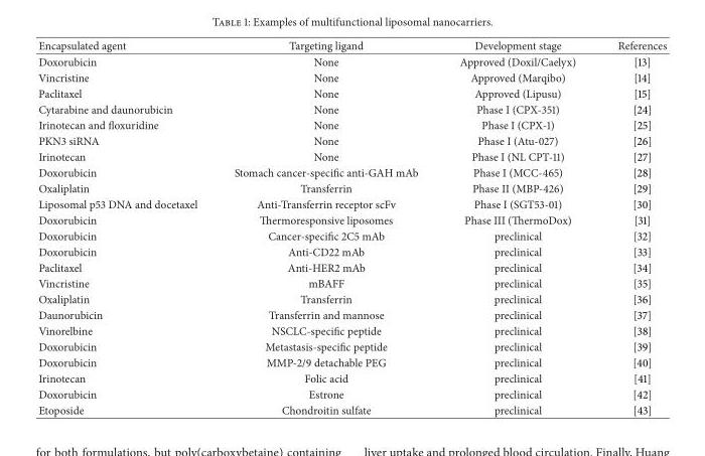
<table><thead><tr><td>Encapsulated agent</td><td>Targeting ligand</td><td>Development stage</td><td>References</td></tr></thead><tbody><tr><td>Doxorubicin</td><td>None</td><td>Approved (Doxil/Caelyx)</td><td>[13]</td></tr><tr><td>Vincristine</td><td>None</td><td>Approved (Marqibo)</td><td>[14]</td></tr><tr><td>Paclitaxel</td><td>None</td><td>Approved (Lipusu)</td><td>[15]</td></tr><tr><td>Cytarabine and daunorubicin</td><td>None</td><td>Phase I (CPX-351)</td><td>[24]</td></tr><tr><td>Irinotecan and floxuridine</td><td>None</td><td>Phase I (CPX-1)</td><td>[25]</td></tr><tr><td>PKN3 siRNA</td><td>None</td><td>Phase I (Atu-027)</td><td>[26]</td></tr><tr><td>Irinotecan</td><td>None</td><td>Phase I (NL CPT-11)</td><td>[27]</td></tr><tr><td>Doxorubicin</td><td>Stomach cancer-specific anti-GAH mAb</td><td>Phase I (MCC-465)</td><td>[28]</td></tr><tr><td>Oxaliplatin</td><td>Transferrin</td><td>Phase II (MBP-426)</td><td>[29]</td></tr><tr><td>Liposomal p53 DNA and docetaxel</td><td>Anti-Transferrin receptor scFv</td><td>Phase I (SGT53-01)</td><td>[30]</td></tr><tr><td>Doxorubicin</td><td>Thermoresponsive liposomes</td><td>Phase III (ThermoDox)</td><td>[31]</td></tr><tr><td>Doxorubicin</td><td>Cancer-specific 2C5 mAb</td><td>preclinical</td><td>[32]</td></tr><tr><td>Doxorubicin</td><td>Anti-CD22 mAb</td><td>preclinical</td><td>[33]</td></tr><tr><td>Paclitaxel</td><td>Anti-HER2 mAb</td><td>preclinical</td><td>[34]</td></tr><tr><td>Vincristine</td><td>mBAFF</td><td>preclinical</td><td>[35]</td></tr><tr><td>Oxaliplatin</td><td>Transferrin</td><td>preclinical</td><td>[36]</td></tr><tr><td>Daunorubicin</td><td>Transferrin and mannose</td><td>preclinical</td><td>[37]</td></tr><tr><td>Vinorelbine</td><td>NSCLC-specific peptide</td><td>preclinical</td><td>[38]</td></tr><tr><td>Doxorubicin</td><td>Metastasis-specific peptide</td><td>preclinical</td><td>[39]</td></tr><tr><td>Doxorubicin</td><td>MMP-2/9 detachable PEG</td><td>preclinical</td><td>[40]</td></tr><tr><td>Irinotecan</td><td>Folic acid</td><td>preclinical</td><td>[41]</td></tr><tr><td>Doxorubicin</td><td>Estrone</td><td>preclinical</td><td>[42]</td></tr><tr><td>Etoposide</td><td>Chondroitin sulfate</td><td>preclinical</td><td>[43]</td></tr></tbody></table>